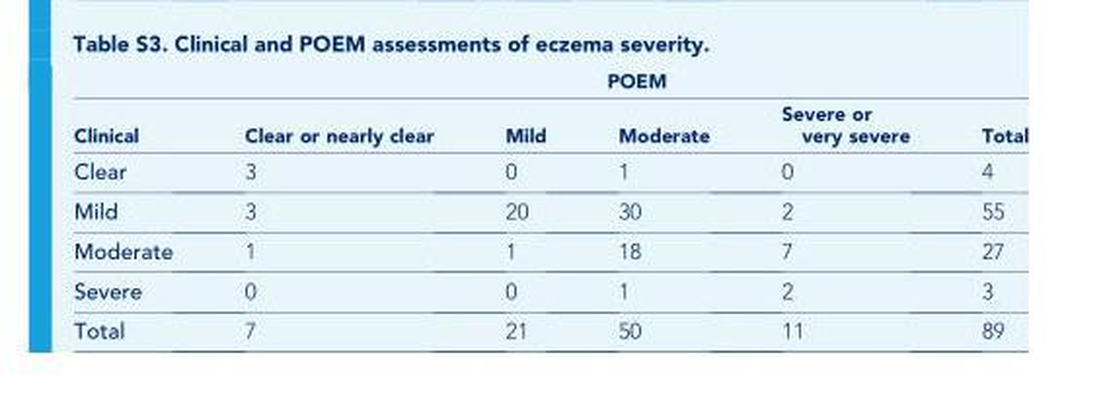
<table><thead><tr><td rowspan="2">Clinical</td><td colspan="5">POEM</td></tr><tr><td>Clear or nearly clear</td><td>Mild</td><td>Moderate</td><td>Severe or very severe</td><td>Total</td></tr></thead><tbody><tr><td>Clear</td><td>3</td><td>0</td><td>1</td><td>0</td><td>4</td></tr><tr><td>Mild</td><td>3</td><td>20</td><td>30</td><td>2</td><td>55</td></tr><tr><td>Moderate</td><td>1</td><td>1</td><td>18</td><td>7</td><td>27</td></tr><tr><td>Severe</td><td>0</td><td>0</td><td>1</td><td>2</td><td>3</td></tr><tr><td>Total</td><td>7</td><td>21</td><td>50</td><td>11</td><td>89</td></tr></tbody></table>